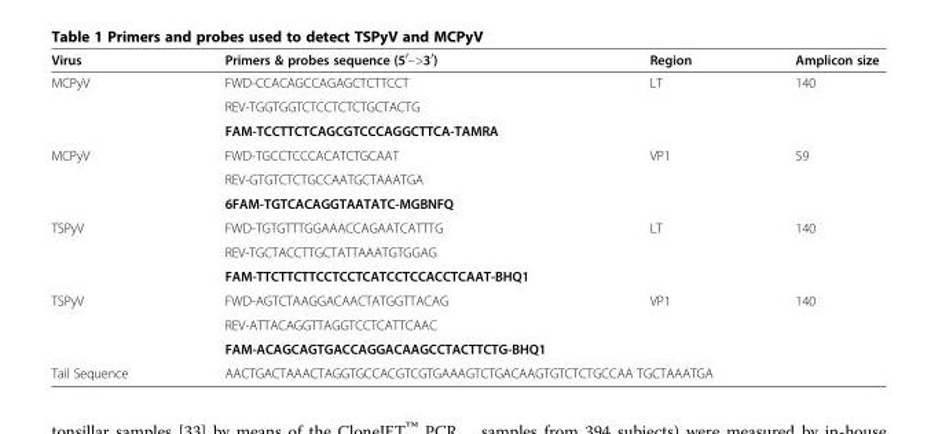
<table><thead><tr><td>Virus</td><td>Primers &amp; probes sequence (50–&gt;30)</td><td>Region</td><td>Amplicon size</td></tr></thead><tbody><tr><td rowspan="3">MCPyV</td><td>FWD-CCACAGCCAGAGCTCTTCCT</td><td rowspan="3">LT</td><td rowspan="3">140</td></tr><tr><td>REV-TGGTGGTCTCCTCTCTGCTACTG</td></tr><tr><td>FAM-TCCTTCTCAGCGTCCCAGGCTTCA-TAMRA</td></tr><tr><td rowspan="3">MCPyV</td><td>FWD-TGCCTCCCACATCTGCAAT</td><td rowspan="3">VP1</td><td rowspan="3">59</td></tr><tr><td>REV-GTGTCTCTGCCAATGCTAAATGA</td></tr><tr><td>6FAM-TGTCACAGGTAATATC-MGBNFQ</td></tr><tr><td rowspan="3">TSPyV</td><td>FWD-TGTGTTTGGAAACCAGAATCATTTG</td><td rowspan="3">LT</td><td rowspan="3">140</td></tr><tr><td>REV-TGCTACCTTGCTATTAAATGTGGAG</td></tr><tr><td>FAM-TTCTTCTTCCTCCTCATCCTCCACCTCAAT-BHQ1</td></tr><tr><td rowspan="3">TSPyV</td><td>FWD-AGTCTAAGGACAACTATGGTTACAG</td><td rowspan="3">VP1</td><td rowspan="3">140</td></tr><tr><td>REV-ATTACAGGTTAGGTCCTCATTCAAC</td></tr><tr><td>FAM-ACAGCAGTGACCAGGACAAGCCTACTTCTG-BHQ1</td></tr><tr><td>Tail Sequence</td><td colspan="3">AACTGACTAAACTAGGTGCCACGTCGTGAAAGTCTGACAAGTGTCTCTGCCAA TGCTAAATGA</td></tr></tbody></table>